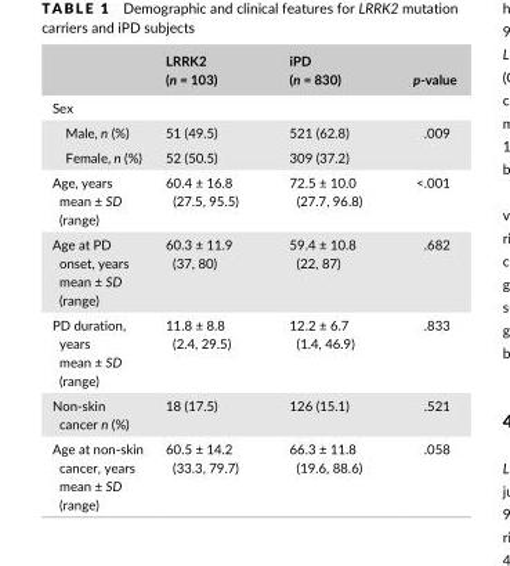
<table><thead><tr><td></td><td>LRRK2 (n = 103)</td><td>iPD (n = 830)</td><td>p- value</td></tr></thead><tbody><tr><td colspan="4">Sex</td></tr><tr><td>Male, n (%)</td><td>51 (49.5)</td><td>521 (62.8)</td><td rowspan="2">.009</td></tr><tr><td>Female, n (%)</td><td>52 (50.5)</td><td>309 (37.2)</td></tr><tr><td>Age, years mean ± SD (range)</td><td>60.4 ± 16.8 (27.5, 95.5)</td><td>72.5 ± 10.0 (27.7, 96.8)</td><td>&lt;.001</td></tr><tr><td>Age at PD onset, years mean ± SD (range)</td><td>60.3 ± 11.9 (37, 80)</td><td>59.4 ± 10.8 (22, 87)</td><td>.682</td></tr><tr><td>PD duration, years mean ± SD (range)</td><td>11.8 ± 8.8 (2.4, 29.5)</td><td>12.2 ± 6.7 (1.4, 46.9)</td><td>.833</td></tr><tr><td>Non- skin cancer n (%)</td><td>18 (17.5)</td><td>126 (15.1)</td><td>.521</td></tr><tr><td>Age at non- skin cancer, years mean ± SD (range)</td><td>60.5 ± 14.2 (33.3, 79.7)</td><td>66.3 ± 11.8 (19.6, 88.6)</td><td>.058</td></tr></tbody></table>